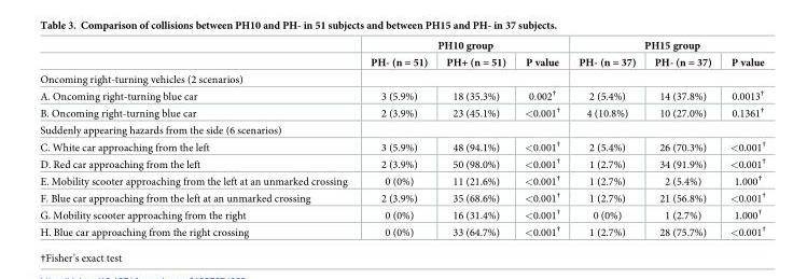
<table><thead><tr><td rowspan="2"></td><td colspan="3">PH10 group</td><td colspan="3">PH15 group</td></tr><tr><td>PH- (n = 51)</td><td>PH+ (n = 51)</td><td>P value</td><td>PH- (n = 37)</td><td>PH- (n = 37)</td><td>P value</td></tr></thead><tbody><tr><td colspan="7">Oncoming right-turning vehicles (2 scenarios)</td></tr><tr><td>A. Oncoming right-turning blue car</td><td>3 (5.9%)</td><td>18 (35.3%)</td><td>0.002<sup>†</sup></td><td>2 (5.4%)</td><td>14 (37.8%)</td><td>0.0013<sup>†</sup></td></tr><tr><td>B. Oncoming right-turning blue car</td><td>2 (3.9%)</td><td>23 (45.1%)</td><td>&lt;0.001<sup>†</sup></td><td>4 (10.8%)</td><td>10 (27.0%)</td><td>0.1361<sup>†</sup></td></tr><tr><td colspan="7">Suddenly appearing hazards from the side (6 scenarios)</td></tr><tr><td>C. White car approaching from the left</td><td>3 (5.9%)</td><td>48 (94.1%)</td><td>&lt;0.001<sup>†</sup></td><td>2 (5.4%)</td><td>26 (70.3%)</td><td>&lt;0.001<sup>†</sup></td></tr><tr><td>D. Red car approaching from the left</td><td>2 (3.9%)</td><td>50 (98.0%)</td><td>&lt;0.001<sup>†</sup></td><td>1 (2.7%)</td><td>34 (91.9%)</td><td>&lt;0.001<sup>†</sup></td></tr><tr><td>E. Mobility scooter approaching from the left at an unmarked crossing</td><td>0 (0%)</td><td>11 (21.6%)</td><td>&lt;0.001<sup>†</sup></td><td>1 (2.7%)</td><td>2 (5.4%)</td><td>1.000<sup>†</sup></td></tr><tr><td>F. Blue car approaching from the left at an unmarked crossing</td><td>2 (3.9%)</td><td>35 (68.6%)</td><td>&lt;0.001<sup>†</sup></td><td>1 (2.7%)</td><td>21 (56.8%)</td><td>&lt;0.001<sup>†</sup></td></tr><tr><td>G. Mobility scooter approaching from the right</td><td>0 (0%)</td><td>16 (31.4%)</td><td>&lt;0.001<sup>†</sup></td><td>0 (0%)</td><td>1 (2.7%)</td><td>1.000<sup>†</sup></td></tr><tr><td>H. Blue car approaching from the right crossing</td><td>0 (0%)</td><td>33 (64.7%)</td><td>&lt;0.001<sup>†</sup></td><td>1 (2.7%)</td><td>28 (75.7%)</td><td>&lt;0.001<sup>†</sup></td></tr></tbody></table>